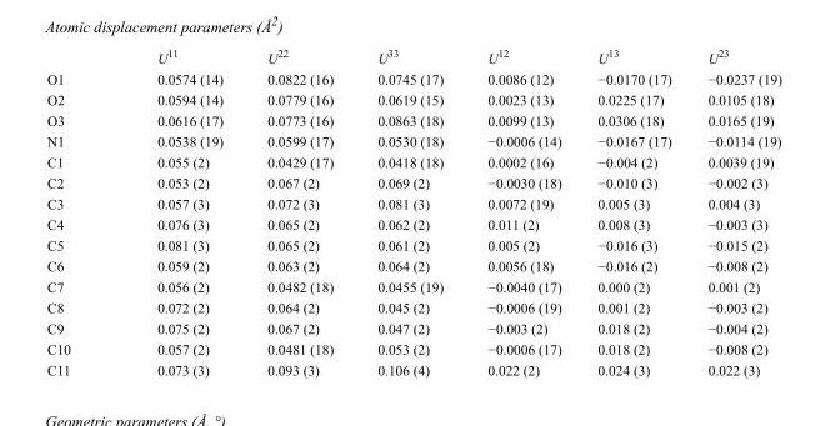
<table><thead><tr><td></td><td>U<sup>11</sup></td><td>U<sup>22</sup></td><td>U<sup>33</sup></td><td>U<sup>12</sup></td><td>U<sup>13</sup></td><td>U<sup>23</sup></td></tr></thead><tbody><tr><td>O1</td><td>0.0574 (14)</td><td>0.0822 (16)</td><td>0.0745 (17)</td><td>0.0086 (12)</td><td>−0.0170 (17)</td><td>−0.0237 (19)</td></tr><tr><td>O2</td><td>0.0594 (14)</td><td>0.0779 (16)</td><td>0.0619 (15)</td><td>0.0023 (13)</td><td>0.0225 (17)</td><td>0.0105 (18)</td></tr><tr><td>O3</td><td>0.0616 (17)</td><td>0.0773 (16)</td><td>0.0863 (18)</td><td>0.0099 (13)</td><td>0.0306 (18)</td><td>0.0165 (19)</td></tr><tr><td>N1</td><td>0.0538 (19)</td><td>0.0599 (17)</td><td>0.0530 (18)</td><td>−0.0006 (14)</td><td>−0.0167 (17)</td><td>−0.0114 (19)</td></tr><tr><td>C1</td><td>0.055 (2)</td><td>0.0429 (17)</td><td>0.0418 (18)</td><td>0.0002 (16)</td><td>−0.004 (2)</td><td>0.0039 (19)</td></tr><tr><td>C2</td><td>0.053 (2)</td><td>0.067 (2)</td><td>0.069 (2)</td><td>−0.0030 (18)</td><td>−0.010 (3)</td><td>−0.002 (3)</td></tr><tr><td>C3</td><td>0.057 (3)</td><td>0.072 (3)</td><td>0.081 (3)</td><td>0.0072 (19)</td><td>0.005 (3)</td><td>0.004 (3)</td></tr><tr><td>C4</td><td>0.076 (3)</td><td>0.065 (2)</td><td>0.062 (2)</td><td>0.011 (2)</td><td>0.008 (3)</td><td>−0.003 (3)</td></tr><tr><td>C5</td><td>0.081 (3)</td><td>0.065 (2)</td><td>0.061 (2)</td><td>0.005 (2)</td><td>−0.016 (3)</td><td>−0.015 (2)</td></tr><tr><td>C6</td><td>0.059 (2)</td><td>0.063 (2)</td><td>0.064 (2)</td><td>0.0056 (18)</td><td>−0.016 (2)</td><td>−0.008 (2)</td></tr><tr><td>C7</td><td>0.056 (2)</td><td>0.0482 (18)</td><td>0.0455 (19)</td><td>−0.0040 (17)</td><td>0.000 (2)</td><td>0.001 (2)</td></tr><tr><td>C8</td><td>0.072 (2)</td><td>0.064 (2)</td><td>0.045 (2)</td><td>−0.0006 (19)</td><td>0.001 (2)</td><td>−0.003 (2)</td></tr><tr><td>C9</td><td>0.075 (2)</td><td>0.067 (2)</td><td>0.047 (2)</td><td>−0.003 (2)</td><td>0.018 (2)</td><td>−0.004 (2)</td></tr><tr><td>C10</td><td>0.057 (2)</td><td>0.0481 (18)</td><td>0.053 (2)</td><td>−0.0006 (17)</td><td>0.018 (2)</td><td>−0.008 (2)</td></tr><tr><td>C11</td><td>0.073 (3)</td><td>0.093 (3)</td><td>0.106 (4)</td><td>0.022 (2)</td><td>0.024 (3)</td><td>0.022 (3)</td></tr></tbody></table>